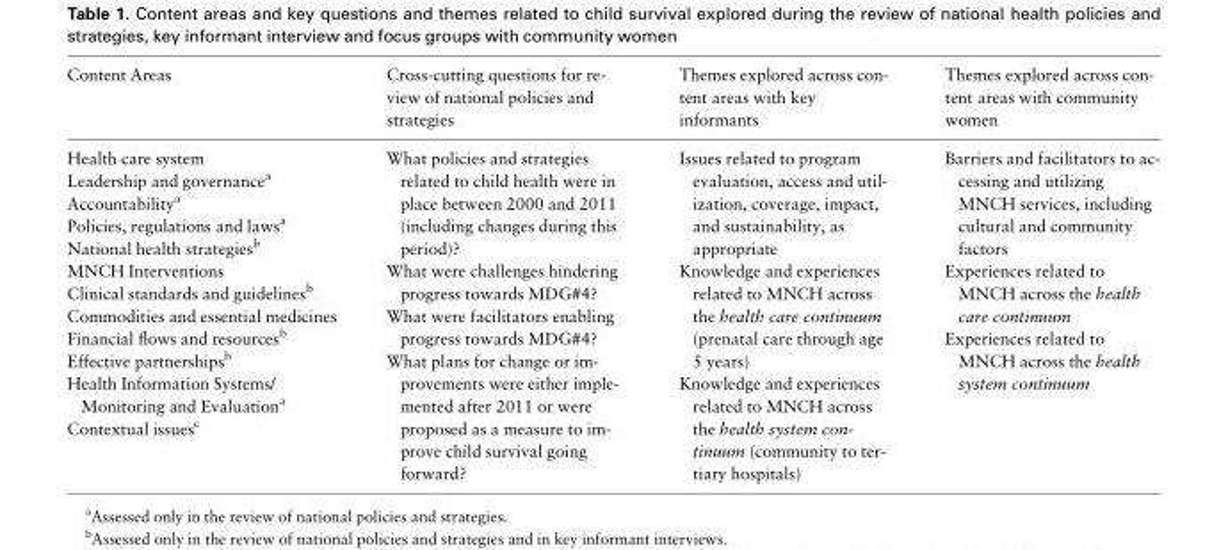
<table><thead><tr><td>Content Areas</td><td>Cross-cutting questions for re- view of national policies and strategies</td><td>Themes explored across con- tent areas with key informants</td><td>Themes explored across con- tent areas with community women</td></tr></thead><tbody><tr><td>Health care system Leadership and governancea Accountabilitya Policies, regulations and lawsa National health strategiesb MNCH Interventions Clinical standards and guidelinesb Commodities and essential medicines Financial flows and resourcesb Effective partnershipsb Health Information Systems/ Monitoring and Evaluationa Contextual issuesc</td><td>What policies and strategies related to child health were in place between 2000 and 2011 (including changes during this period)? What were challenges hindering progress towards MDG#4? What were facilitators enabling progress towards MDG#4? What plans for change or im- provements were either imple- mented after 2011 or were proposed as a measure to im- prove child survival going forward?</td><td>Issues related to program evaluation, access and util- ization, coverage, impact, and sustainability, as appropriate Knowledge and experiences related to MNCH across the health care continuum (prenatal care through age 5 years) Knowledge and experiences related to MNCH across the health system con- tinuum (community to ter- tiary hospitals)</td><td>Barriers and facilitators to ac- cessing and utilizing MNCH services, including cultural and community factors Experiences related to MNCH across the health care continuum Experiences related to MNCH across the health system continuum</td></tr></tbody></table>